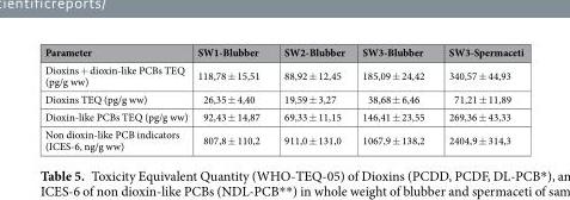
<table><thead><tr><td>Parameter</td><td>SW1-Blubber</td><td>SW2-Blubber</td><td>SW3-Blubber</td><td>SW3-Spermaceti</td></tr></thead><tbody><tr><td>Dioxins + dioxin-like PCBs TEQ (pg/g ww)</td><td>118,78 ± 15,51</td><td>88,92 ± 12,45</td><td>185,09 ± 24,42</td><td>340,57 ± 44,93</td></tr><tr><td>Dioxins TEQ (pg/g ww)</td><td>26,35 ± 4,40</td><td>19,59 ± 3,27</td><td>38,68 ± 6,46</td><td>71,21 ± 11,89</td></tr><tr><td>Dioxin-like PCBs TEQ (pg/g ww)</td><td>92,43 ± 14,87</td><td>69,33 ± 11,15</td><td>146,41 ± 23,55</td><td>269,36 ± 43,33</td></tr><tr><td>Non dioxin-like PCB indicators (ICES-6, ng/g ww)</td><td>807,8 ± 110,2</td><td>911,0 ± 131,0</td><td>1067,9 ± 138,2</td><td>2404,9 ± 314,3</td></tr></tbody></table>